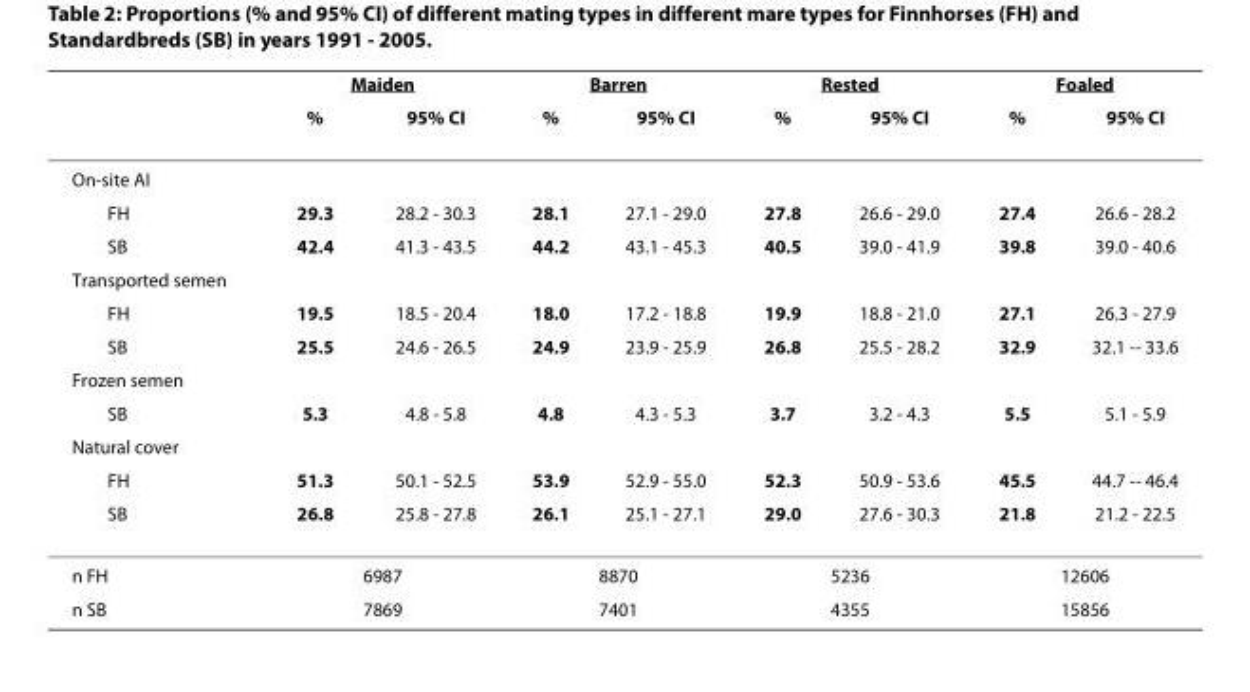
<table><thead><tr><td rowspan="2"></td><td colspan="2">Maiden</td><td colspan="2">Barren</td><td colspan="2">Rested</td><td colspan="2">Foaled</td></tr><tr><td>%</td><td>95% CI</td><td>%</td><td>95% CI</td><td>%</td><td>95% CI</td><td>%</td><td>95% CI</td></tr></thead><tbody><tr><td colspan="9">On-site AI</td></tr><tr><td>FH</td><td>29.3</td><td>28.2 - 30.3</td><td>28.1</td><td>27.1 - 29.0</td><td>27.8</td><td>26.6 - 29.0</td><td>27.4</td><td>26.6 - 28.2</td></tr><tr><td>SB</td><td>42.4</td><td>41.3 - 43.5</td><td>44.2</td><td>43.1 - 45.3</td><td>40.5</td><td>39.0 - 41.9</td><td>39.8</td><td>39.0 - 40.6</td></tr><tr><td colspan="9">Transported semen</td></tr><tr><td>FH</td><td>19.5</td><td>18.5 - 20.4</td><td>18.0</td><td>17.2 - 18.8</td><td>19.9</td><td>18.8 - 21.0</td><td>27.1</td><td>26.3 - 27.9</td></tr><tr><td>SB</td><td>25.5</td><td>24.6 - 26.5</td><td>24.9</td><td>23.9 - 25.9</td><td>26.8</td><td>25.5 - 28.2</td><td>32.9</td><td>32.1 -- 33.6</td></tr><tr><td colspan="9">Frozen semen</td></tr><tr><td>SB</td><td>5.3</td><td>4.8 - 5.8</td><td>4.8</td><td>4.3 - 5.3</td><td>3.7</td><td>3.2 - 4.3</td><td>5.5</td><td>5.1 - 5.9</td></tr><tr><td colspan="9">Natural cover</td></tr><tr><td>FH</td><td>51.3</td><td>50.1 - 52.5</td><td>53.9</td><td>52.9 - 55.0</td><td>52.3</td><td>50.9 - 53.6</td><td>45.5</td><td>44.7 -- 46.4</td></tr><tr><td>SB</td><td>26.8</td><td>25.8 - 27.8</td><td>26.1</td><td>25.1 - 27.1</td><td>29.0</td><td>27.6 - 30.3</td><td>21.8</td><td>21.2 - 22.5</td></tr><tr><td>n FH</td><td colspan="2">6987</td><td colspan="2">8870</td><td colspan="2">5236</td><td colspan="2">12606</td></tr><tr><td>n SB</td><td colspan="2">7869</td><td colspan="2">7401</td><td colspan="2">4355</td><td colspan="2">15856</td></tr></tbody></table>